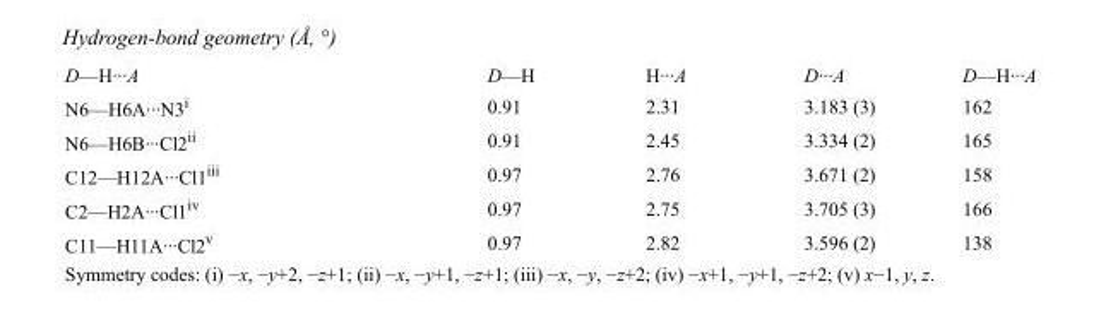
<table><tbody><tr><td>D—H···A</td><td>D—H</td><td>H···A</td><td>D···A</td><td>D—H···A</td></tr><tr><td>N6—H6A···N3<sup>i</sup></td><td>0.91</td><td>2.31</td><td>3.183 (3)</td><td>162</td></tr><tr><td>N6—H6B···Cl2<sup>ii</sup></td><td>0.91</td><td>2.45</td><td>3.334 (2)</td><td>165</td></tr><tr><td>C12—H12A···Cl1<sup>iii</sup></td><td>0.97</td><td>2.76</td><td>3.671 (2)</td><td>158</td></tr><tr><td>C2—H2A···Cl1<sup>iv</sup></td><td>0.97</td><td>2.75</td><td>3.705 (3)</td><td>166</td></tr><tr><td>C11—H11A···Cl2<sup>v</sup></td><td>0.97</td><td>2.82</td><td>3.596 (2)</td><td>138</td></tr></tbody></table>